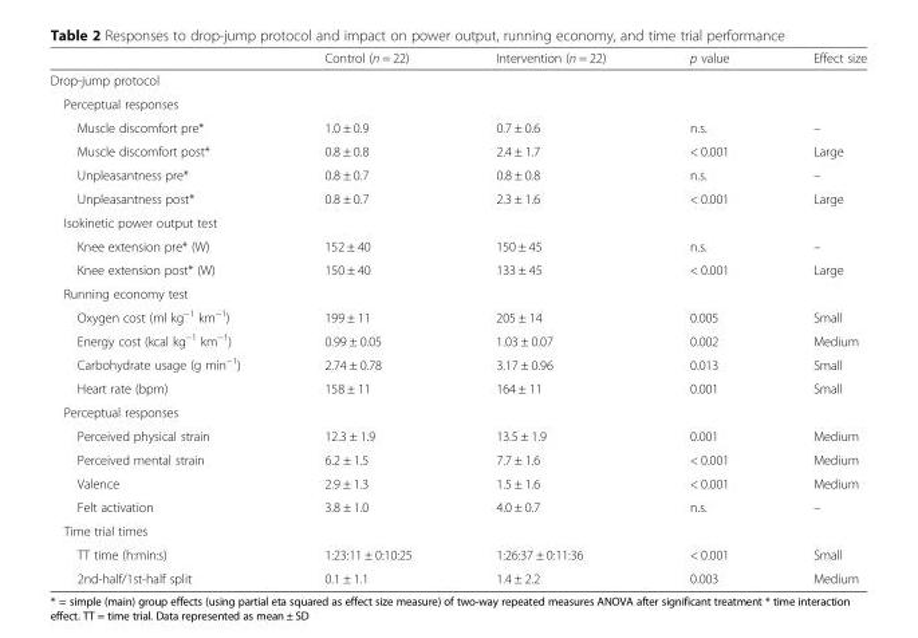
<table><thead><tr><td></td><td>Control (n = 22)</td><td>Intervention (n = 22)</td><td>p value</td><td>Effect size</td></tr></thead><tbody><tr><td colspan="5">Drop-jump protocol</td></tr><tr><td colspan="5">Perceptual responses</td></tr><tr><td>Muscle discomfort pre*</td><td>1.0 ± 0.9</td><td>0.7 ± 0.6</td><td>n.s.</td><td>–</td></tr><tr><td>Muscle discomfort post*</td><td>0.8 ± 0.8</td><td>2.4 ± 1.7</td><td>&lt; 0.001</td><td>Large</td></tr><tr><td>Unpleasantness pre*</td><td>0.8 ± 0.7</td><td>0.8 ± 0.8</td><td>n.s.</td><td>–</td></tr><tr><td>Unpleasantness post*</td><td>0.8 ± 0.7</td><td>2.3 ± 1.6</td><td>&lt; 0.001</td><td>Large</td></tr><tr><td colspan="5">Isokinetic power output test</td></tr><tr><td>Knee extension pre* (W)</td><td>152 ± 40</td><td>150 ± 45</td><td>n.s.</td><td>–</td></tr><tr><td>Knee extension post* (W)</td><td>150 ± 40</td><td>133 ± 45</td><td>&lt; 0.001</td><td>Large</td></tr><tr><td colspan="5">Running economy test</td></tr><tr><td>Oxygen cost (ml kg<sup>−1</sup> km<sup>−1</sup>)</td><td>199 ± 11</td><td>205 ± 14</td><td>0.005</td><td>Small</td></tr><tr><td>Energy cost (kcal kg<sup>−1</sup> km<sup>−1</sup>)</td><td>0.99 ± 0.05</td><td>1.03 ± 0.07</td><td>0.002</td><td>Medium</td></tr><tr><td>Carbohydrate usage (g min<sup>−1</sup>)</td><td>2.74 ± 0.78</td><td>3.17 ± 0.96</td><td>0.013</td><td>Small</td></tr><tr><td>Heart rate (bpm)</td><td>158 ± 11</td><td>164 ± 11</td><td>0.001</td><td>Small</td></tr><tr><td colspan="5">Perceptual responses</td></tr><tr><td>Perceived physical strain</td><td>12.3 ± 1.9</td><td>13.5 ± 1.9</td><td>0.001</td><td>Medium</td></tr><tr><td>Perceived mental strain</td><td>6.2 ± 1.5</td><td>7.7 ± 1.6</td><td>&lt; 0.001</td><td>Medium</td></tr><tr><td>Valence</td><td>2.9 ± 1.3</td><td>1.5 ± 1.6</td><td>&lt; 0.001</td><td>Medium</td></tr><tr><td>Felt activation</td><td>3.8 ± 1.0</td><td>4.0 ± 0.7</td><td>n.s.</td><td>–</td></tr><tr><td colspan="5">Time trial times</td></tr><tr><td>TT time (h:min:s)</td><td>1:23:11 ± 0:10:25</td><td>1:26:37 ± 0:11:36</td><td>&lt; 0.001</td><td>Small</td></tr><tr><td>2nd-half/1st-half split</td><td>0.1 ± 1.1</td><td>1.4 ± 2.2</td><td>0.003</td><td>Medium</td></tr></tbody></table>